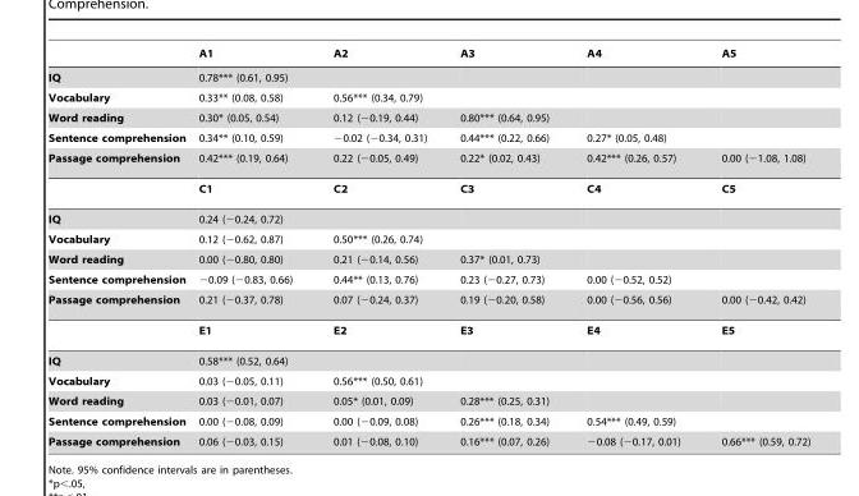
<table><thead><tr><td></td><td>A1</td><td>A2</td><td>A3</td><td>A4</td><td>A5</td></tr></thead><tbody><tr><td>IQ</td><td>0.78*** (0.61, 0.95)</td><td></td><td></td><td></td><td></td></tr><tr><td>Vocabulary</td><td>0.33** (0.08, 0.58)</td><td>0.56*** (0.34, 0.79)</td><td></td><td></td><td></td></tr><tr><td>Word reading</td><td>0.30* (0.05, 0.54)</td><td>0.12 (−0.19, 0.44)</td><td>0.80*** (0.64, 0.95)</td><td></td><td></td></tr><tr><td>Sentence comprehension</td><td>0.34** (0.10, 0.59)</td><td>−0.02 (−0.34, 0.31)</td><td>0.44*** (0.22, 0.66)</td><td>0.27* (0.05, 0.48)</td><td></td></tr><tr><td rowspan="2">Passage comprehension</td><td>0.42*** (0.19, 0.64)</td><td>0.22 (−0.05, 0.49)</td><td>0.22* (0.02, 0.43)</td><td>0.42*** (0.26, 0.57)</td><td>0.00 (−1.08, 1.08)</td></tr><tr><td>C1</td><td>C2</td><td>C3</td><td>C4</td><td>C5</td></tr><tr><td>IQ</td><td>0.24 (−0.24, 0.72)</td><td></td><td></td><td></td><td></td></tr><tr><td>Vocabulary</td><td>0.12 (−0.62, 0.87)</td><td>0.50*** (0.26, 0.74)</td><td></td><td></td><td></td></tr><tr><td>Word reading</td><td>0.00 (−0.80, 0.80)</td><td>0.21 (−0.14, 0.56)</td><td>0.37* (0.01, 0.73)</td><td></td><td></td></tr><tr><td>Sentence comprehension</td><td>−0.09 (−0.83, 0.66)</td><td>0.44** (0.13, 0.76)</td><td>0.23 (−0.27, 0.73)</td><td>0.00 (−0.52, 0.52)</td><td></td></tr><tr><td rowspan="2">Passage comprehension</td><td>0.21 (−0.37, 0.78)</td><td>0.07 (−0.24, 0.37)</td><td>0.19 (−0.20, 0.58)</td><td>0.00 (−0.56, 0.56)</td><td>0.00 (−0.42, 0.42)</td></tr><tr><td>E1</td><td>E2</td><td>E3</td><td>E4</td><td>E5</td></tr><tr><td>IQ</td><td>0.58*** (0.52, 0.64)</td><td></td><td></td><td></td><td></td></tr><tr><td>Vocabulary</td><td>0.03 (−0.05, 0.11)</td><td>0.56*** (0.50, 0.61)</td><td></td><td></td><td></td></tr><tr><td>Word reading</td><td>0.03 (−0.01, 0.07)</td><td>0.05* (0.01, 0.09)</td><td>0.28*** (0.25, 0.31)</td><td></td><td></td></tr><tr><td>Sentence comprehension</td><td>0.00 (−0.08, 0.09)</td><td>0.00 (−0.09, 0.08)</td><td>0.26*** (0.18, 0.34)</td><td>0.54*** (0.49, 0.59)</td><td></td></tr><tr><td>Passage comprehension</td><td>0.06 (−0.03, 0.15)</td><td>0.01 (−0.08, 0.10)</td><td>0.16*** (0.07, 0.26)</td><td>−0.08 (−0.17, 0.01)</td><td>0.66*** (0.59, 0.72)</td></tr></tbody></table>